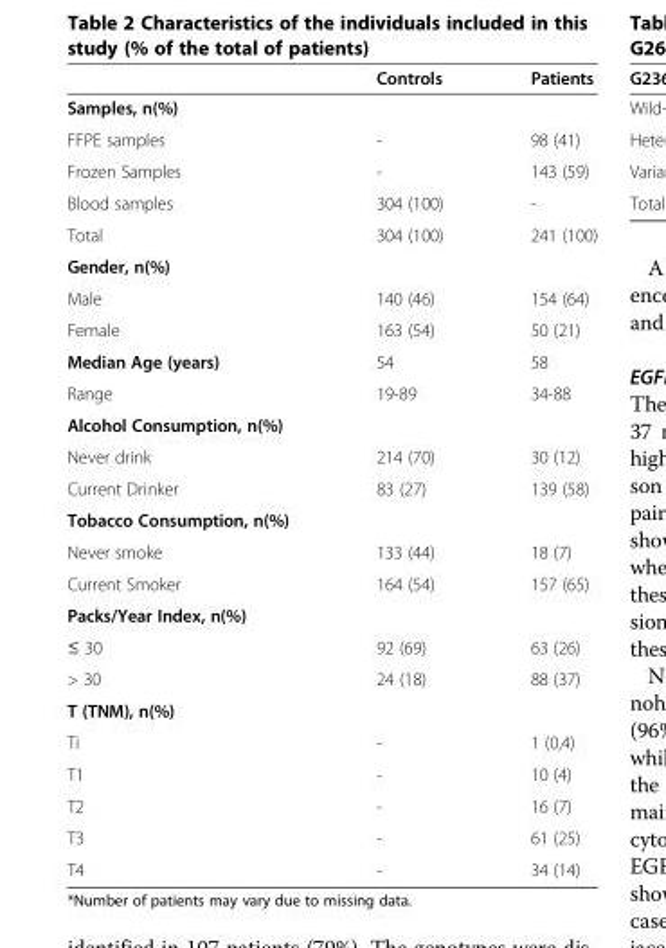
<table><thead><tr><td></td><td>Controls</td><td>Patients</td></tr></thead><tbody><tr><td colspan="3">Samples, n(%)</td></tr><tr><td>FFPE samples</td><td>-</td><td>98 (41)</td></tr><tr><td>Frozen Samples</td><td>-</td><td>143 (59)</td></tr><tr><td>Blood samples</td><td>304 (100)</td><td>-</td></tr><tr><td>Total</td><td>304 (100)</td><td>241 (100)</td></tr><tr><td colspan="3">Gender, n(%)</td></tr><tr><td>Male</td><td>140 (46)</td><td>154 (64)</td></tr><tr><td>Female</td><td>163 (54)</td><td>50 (21)</td></tr><tr><td>Median Age (years)</td><td>54</td><td>58</td></tr><tr><td>Range</td><td>19-89</td><td>34-88</td></tr><tr><td colspan="3">Alcohol Consumption, n(%)</td></tr><tr><td>Never drink</td><td>214 (70)</td><td>30 (12)</td></tr><tr><td>Current Drinker</td><td>83 (27)</td><td>139 (58)</td></tr><tr><td colspan="3">Tobacco Consumption, n(%)</td></tr><tr><td>Never smoke</td><td>133 (44)</td><td>18 (7)</td></tr><tr><td>Current Smoker</td><td>164 (54)</td><td>157 (65)</td></tr><tr><td colspan="3">Packs/Year Index, n(%)</td></tr><tr><td>≤ 30</td><td>92 (69)</td><td>63 (26)</td></tr><tr><td>&gt; 30</td><td>24 (18)</td><td>88 (37)</td></tr><tr><td colspan="3">T (TNM), n(%)</td></tr><tr><td>Ti</td><td>-</td><td>1 (0,4)</td></tr><tr><td>T1</td><td>-</td><td>10 (4)</td></tr><tr><td>T2</td><td>-</td><td>16 (7)</td></tr><tr><td>T3</td><td>-</td><td>61 (25)</td></tr><tr><td>T4</td><td>-</td><td>34 (14)</td></tr></tbody></table>